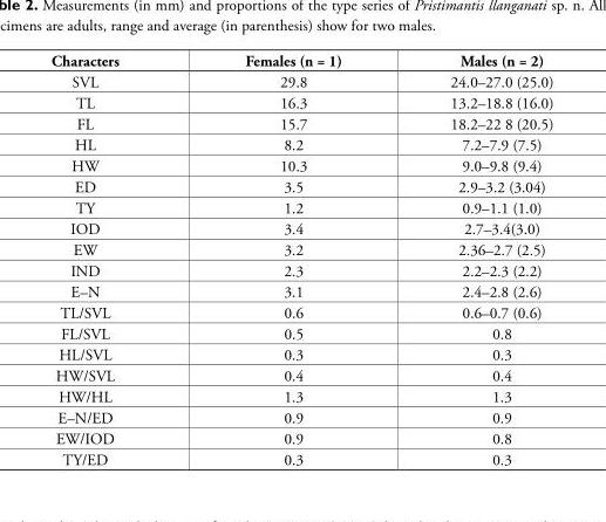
<table><thead><tr><td>Characters</td><td>Females (n = 1)</td><td>Males (n = 2)</td></tr></thead><tbody><tr><td>SVL</td><td>29.8</td><td>24.0–27.0 (25.0)</td></tr><tr><td>TL</td><td>16.3</td><td>13.2–18.8 (16.0)</td></tr><tr><td>FL</td><td>15.7</td><td>18.2–22 8 (20.5)</td></tr><tr><td>HL</td><td>8.2</td><td>7.2–7.9 (7.5)</td></tr><tr><td>HW</td><td>10.3</td><td>9.0–9.8 (9.4)</td></tr><tr><td>ED</td><td>3.5</td><td>2.9–3.2 (3.04)</td></tr><tr><td>TY</td><td>1.2</td><td>0.9–1.1 (1.0)</td></tr><tr><td>IOD</td><td>3.4</td><td>2.7–3.4(3.0)</td></tr><tr><td>EW</td><td>3.2</td><td>2.36–2.7 (2.5)</td></tr><tr><td>IND</td><td>2.3</td><td>2.2–2.3 (2.2)</td></tr><tr><td>E–N</td><td>3.1</td><td>2.4–2.8 (2.6)</td></tr><tr><td>TL/SVL</td><td>0.6</td><td>0.6–0.7 (0.6)</td></tr><tr><td>FL/SVL</td><td>0.5</td><td>0.8</td></tr><tr><td>HL/SVL</td><td>0.3</td><td>0.3</td></tr><tr><td>HW/SVL</td><td>0.4</td><td>0.4</td></tr><tr><td>HW/HL</td><td>1.3</td><td>1.3</td></tr><tr><td>E–N/ED</td><td>0.9</td><td>0.9</td></tr><tr><td>EW/IOD</td><td>0.9</td><td>0.8</td></tr><tr><td>TY/ED</td><td>0.3</td><td>0.3</td></tr></tbody></table>